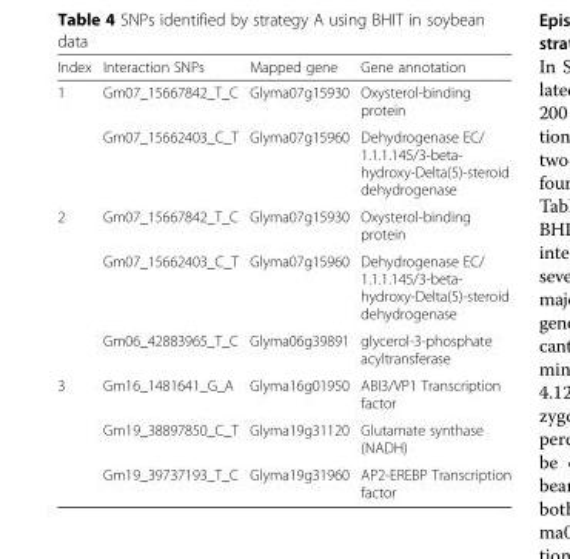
<table><thead><tr><td>Index</td><td>Interaction SNPs</td><td>Mapped gene</td><td>Gene annotation</td></tr></thead><tbody><tr><td rowspan="2">1</td><td>Gm07_15667842_T_C</td><td>Glyma07g15930</td><td>Oxysterol-binding protein</td></tr><tr><td>Gm07_15662403_C_T</td><td>Glyma07g15960</td><td>Dehydrogenase EC/ 1.1.1.145/3-beta- hydroxy-Delta(5)-steroid dehydrogenase</td></tr><tr><td rowspan="3">2</td><td>Gm07_15667842_T_C</td><td>Glyma07g15930</td><td>Oxysterol-binding protein</td></tr><tr><td>Gm07_15662403_C_T</td><td>Glyma07g15960</td><td>Dehydrogenase EC/ 1.1.1.145/3-beta- hydroxy-Delta(5)-steroid dehydrogenase</td></tr><tr><td>Gm06_42883965_T_C</td><td>Glyma06g39891</td><td>glycerol-3-phosphate acyltransferase</td></tr><tr><td rowspan="3">3</td><td>Gm16_1481641_G_A</td><td>Glyma16g01950</td><td>ABI3/VP1 Transcription factor</td></tr><tr><td>Gm19_38897850_C_T</td><td>Glyma19g31120</td><td>Glutamate synthase (NADH)</td></tr><tr><td>Gm19_39737193_T_C</td><td>Glyma19g31960</td><td>AP2-EREBP Transcription factor</td></tr></tbody></table>